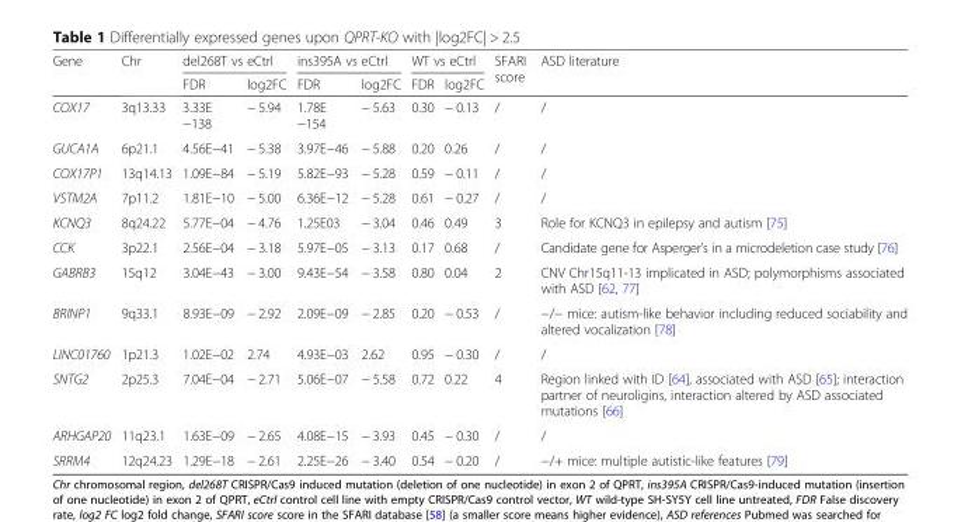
<table><thead><tr><td rowspan="2">Gene</td><td rowspan="2">Chr</td><td colspan="2">del268T vs eCtrl</td><td colspan="2">ins395A vs eCtrl</td><td colspan="2">WT vs eCtrl</td><td rowspan="2">SFARI score</td><td rowspan="2">ASD literature</td></tr><tr><td>FDR</td><td>log2FC</td><td>FDR</td><td>log2FC</td><td>FDR</td><td>log2FC</td></tr></thead><tbody><tr><td>COX17</td><td>3q13.33</td><td>3.33E −138</td><td>− 5.94</td><td>1.78E −154</td><td>− 5.63</td><td>0.30</td><td>− 0.13</td><td>/</td><td>/</td></tr><tr><td>GUCA1A</td><td>6p21.1</td><td>4.56E−41</td><td>− 5.38</td><td>3.97E−46</td><td>− 5.88</td><td>0.20</td><td>0.26</td><td>/</td><td>/</td></tr><tr><td>COX17P1</td><td>13q14.13</td><td>1.09E−84</td><td>− 5.19</td><td>5.82E−93</td><td>− 5.28</td><td>0.59</td><td>− 0.11</td><td>/</td><td>/</td></tr><tr><td>VSTM2A</td><td>7p11.2</td><td>1.81E−10</td><td>− 5.00</td><td>6.36E−12</td><td>− 5.28</td><td>0.61</td><td>− 0.27</td><td>/</td><td>/</td></tr><tr><td>KCNQ3</td><td>8q24.22</td><td>5.77E−04</td><td>− 4.76</td><td>1.25E03</td><td>− 3.04</td><td>0.46</td><td>0.49</td><td>3</td><td>Role for KCNQ3 in epilepsy and autism [75]</td></tr><tr><td>CCK</td><td>3p22.1</td><td>2.56E−04</td><td>− 3.18</td><td>5.97E−05</td><td>− 3.13</td><td>0.17</td><td>0.68</td><td>/</td><td>Candidate gene for Asperger’s in a microdeletion case study [76]</td></tr><tr><td>GABRB3</td><td>15q12</td><td>3.04E−43</td><td>− 3.00</td><td>9.43E−54</td><td>− 3.58</td><td>0.80</td><td>0.04</td><td>2</td><td>CNV Chr15q11-13 implicated in ASD; polymorphisms associated with ASD [62, 77]</td></tr><tr><td>BRINP1</td><td>9q33.1</td><td>8.93E−09</td><td>− 2.92</td><td>2.09E−09</td><td>− 2.85</td><td>0.20</td><td>− 0.53</td><td>/</td><td>−/− mice: autism-like behavior including reduced sociability and altered vocalization [78]</td></tr><tr><td>LINC01760</td><td>1p21.3</td><td>1.02E−02</td><td>2.74</td><td>4.93E−03</td><td>2.62</td><td>0.95</td><td>− 0.30</td><td>/</td><td>/</td></tr><tr><td>SNTG2</td><td>2p25.3</td><td>7.04E−04</td><td>− 2.71</td><td>5.06E−07</td><td>− 5.58</td><td>0.72</td><td>0.22</td><td>4</td><td>Region linked with ID [64], associated with ASD [65]; interaction partner of neuroligins, interaction altered by ASD associated mutations [66]</td></tr><tr><td>ARHGAP20</td><td>11q23.1</td><td>1.63E−09</td><td>− 2.65</td><td>4.08E−15</td><td>− 3.93</td><td>0.45</td><td>− 0.30</td><td>/</td><td>/</td></tr><tr><td>SRRM4</td><td>12q24.23</td><td>1.29E−18</td><td>− 2.61</td><td>2.25E−26</td><td>− 3.40</td><td>0.54</td><td>− 0.20</td><td>/</td><td>−/+ mice: multiple autistic-like features [79]</td></tr></tbody></table>